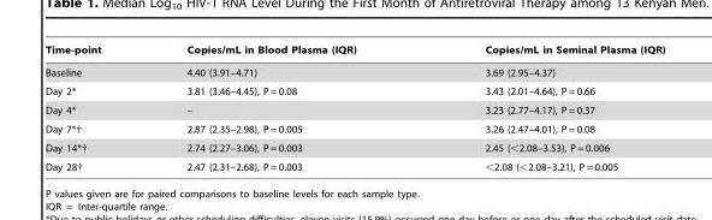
<table><thead><tr><td>Time-point</td><td>Copies/mL in Blood Plasma (IQR)</td><td>Copies/mL in Seminal Plasma (IQR)</td></tr></thead><tbody><tr><td>Baseline</td><td>4.40 (3.91–4.71)</td><td>3.69 (2.95–4.37)</td></tr><tr><td>Day 2*</td><td>3.81 (3.46–4.45), P = 0.08</td><td>3.43 (2.01–4.64), P = 0.66</td></tr><tr><td>Day 4*</td><td>–</td><td>3.23 (2.77–4.17), P = 0.37</td></tr><tr><td>Day 7*†</td><td>2.87 (2.35–2.98), P = 0.005</td><td>3.26 (2.47–4.01), P = 0.08</td></tr><tr><td>Day 14*†</td><td>2.74 (2.27–3.06), P = 0.003</td><td>2.45 (&lt;2.08–3.53), P = 0.006</td></tr><tr><td>Day 28†</td><td>2.47 (2.31–2.68), P = 0.003</td><td>&lt;2.08 (&lt;2.08–3.21), P = 0.005</td></tr></tbody></table>